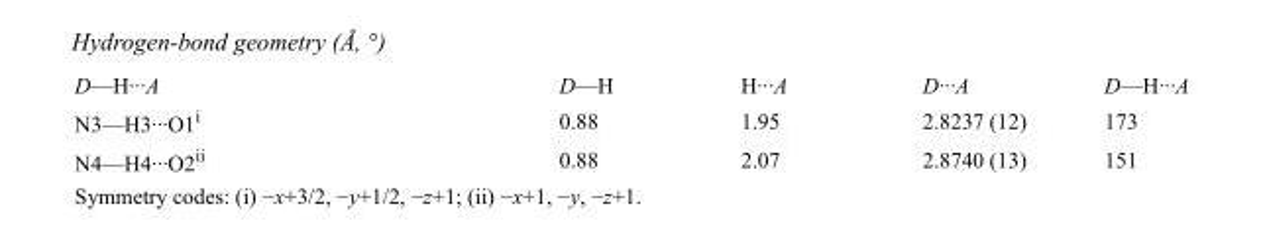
<table><tbody><tr><td>D—H···A</td><td>D—H</td><td>H···A</td><td>D···A</td><td>D—H···A</td></tr><tr><td>N3—H3···O1<sup>i</sup></td><td>0.88</td><td>1.95</td><td>2.8237 (12)</td><td>173</td></tr><tr><td>N4—H4···O2<sup>ii</sup></td><td>0.88</td><td>2.07</td><td>2.8740 (13)</td><td>151</td></tr></tbody></table>